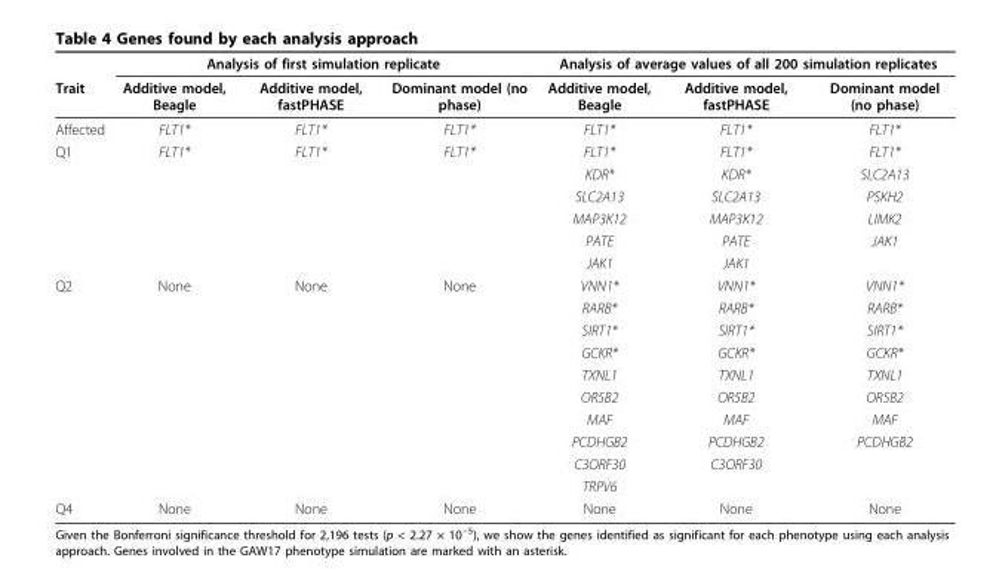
<table><thead><tr><td rowspan="2">Trait</td><td colspan="3">Analysis of first simulation replicate</td><td colspan="3">Analysis of average values of all 200 simulation replicates</td></tr><tr><td>Additive model, Beagle</td><td>Additive model, fastPHASE</td><td>Dominant model (no phase)</td><td>Additive model, Beagle</td><td>Additive model, fastPHASE</td><td>Dominant model (no phase)</td></tr></thead><tbody><tr><td>Affected</td><td>FLT1*</td><td>FLT1*</td><td>FLT1*</td><td>FLT1*</td><td>FLT1*</td><td>FLT1*</td></tr><tr><td rowspan="6">Q1</td><td>FLT1*</td><td>FLT1*</td><td>FLT1*</td><td>FLT1*</td><td>FLT1*</td><td>FLT1*</td></tr><tr><td></td><td></td><td></td><td>KDR*</td><td>KDR*</td><td>SLC2A13</td></tr><tr><td></td><td></td><td></td><td>SLC2A13</td><td>SLC2A13</td><td>PSKH2</td></tr><tr><td></td><td></td><td></td><td>MAP3K12</td><td>MAP3K12</td><td>LIMK2</td></tr><tr><td></td><td></td><td></td><td>PATE</td><td>PATE</td><td>JAK1</td></tr><tr><td></td><td></td><td></td><td>JAK1</td><td>JAK1</td><td></td></tr><tr><td rowspan="10">Q2</td><td>None</td><td>None</td><td>None</td><td>VNN1*</td><td>VNN1*</td><td>VNN1*</td></tr><tr><td></td><td></td><td></td><td>RARB*</td><td>RARB*</td><td>RARB*</td></tr><tr><td></td><td></td><td></td><td>SIRT1*</td><td>SIRT1*</td><td>SIRT1*</td></tr><tr><td></td><td></td><td></td><td>GCKR*</td><td>GCKR*</td><td>GCKR*</td></tr><tr><td></td><td></td><td></td><td>TXNL1</td><td>TXNL1</td><td>TXNL1</td></tr><tr><td></td><td></td><td></td><td>OR5B2</td><td>OR5B2</td><td>OR5B2</td></tr><tr><td></td><td></td><td></td><td>MAF</td><td>MAF</td><td>MAF</td></tr><tr><td></td><td></td><td></td><td>PCDHGB2</td><td>PCDHGB2</td><td>PCDHGB2</td></tr><tr><td></td><td></td><td></td><td>C3ORF30</td><td>C3ORF30</td><td></td></tr><tr><td></td><td></td><td></td><td>TRPV6</td><td></td><td></td></tr><tr><td>Q4</td><td>None</td><td>None</td><td>None</td><td>None</td><td>None</td><td>None</td></tr></tbody></table>